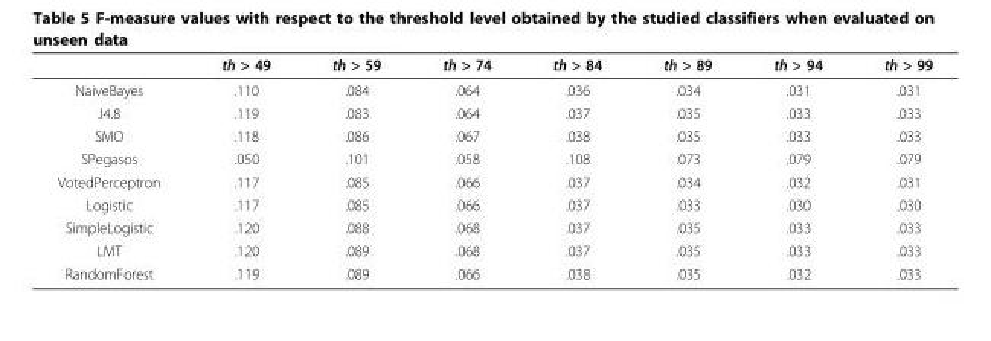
<table><thead><tr><td></td><td>th &gt; 49</td><td>th &gt; 59</td><td>th &gt; 74</td><td>th &gt; 84</td><td>th &gt; 89</td><td>th &gt; 94</td><td>th &gt; 99</td></tr></thead><tbody><tr><td>NaiveBayes</td><td>.110</td><td>.084</td><td>.064</td><td>.036</td><td>.034</td><td>.031</td><td>.031</td></tr><tr><td>J4.8</td><td>.119</td><td>.083</td><td>.064</td><td>.037</td><td>.035</td><td>.033</td><td>.033</td></tr><tr><td>SMO</td><td>.118</td><td>.086</td><td>.067</td><td>.038</td><td>.035</td><td>.033</td><td>.033</td></tr><tr><td>SPegasos</td><td>.050</td><td>.101</td><td>.058</td><td>.108</td><td>.073</td><td>.079</td><td>.079</td></tr><tr><td>VotedPerceptron</td><td>.117</td><td>.085</td><td>.066</td><td>.037</td><td>.034</td><td>.032</td><td>.031</td></tr><tr><td>Logistic</td><td>.117</td><td>.085</td><td>.066</td><td>.037</td><td>.033</td><td>.030</td><td>.030</td></tr><tr><td>SimpleLogistic</td><td>.120</td><td>.088</td><td>.068</td><td>.037</td><td>.035</td><td>.033</td><td>.033</td></tr><tr><td>LMT</td><td>.120</td><td>.089</td><td>.068</td><td>.037</td><td>.035</td><td>.033</td><td>.033</td></tr><tr><td>RandomForest</td><td>.119</td><td>.089</td><td>.066</td><td>.038</td><td>.035</td><td>.032</td><td>.033</td></tr></tbody></table>